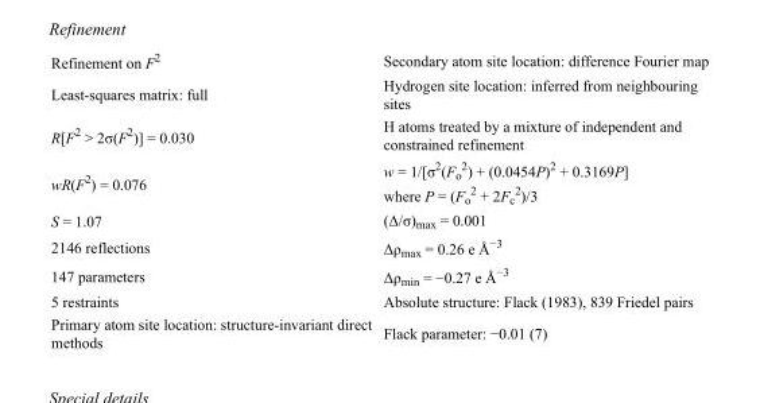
<table><tbody><tr><td>Refinement on F<sup>2</sup></td><td>Secondary atom site location: difference Fourier map</td></tr><tr><td>Least-squares matrix: full</td><td>Hydrogen site location: inferred from neighbouring sites</td></tr><tr><td>R[F<sup>2</sup> &gt; 2σ(F<sup>2</sup>)] = 0.030</td><td>H atoms treated by a mixture of independent and constrained refinement</td></tr><tr><td>wR(F<sup>2</sup>) = 0.076</td><td>w = 1/[σ<sup>2</sup>(F<sub>o</sub> <sup>2</sup>) + (0.0454P)<sup>2</sup> + 0.3169P] where P = (F<sub>o</sub> <sup>2</sup> + 2F<sub>c</sub> <sup>2</sup>)/3</td></tr><tr><td>S = 1.07</td><td>(Δ/σ)<sub>max</sub> = 0.001</td></tr><tr><td>2146 reflections</td><td>Δρ<sub>max</sub> = 0.26 e Å<sup>−3</sup></td></tr><tr><td>147 parameters</td><td>Δρ<sub>min</sub> = −0.27 e Å<sup>−3</sup></td></tr><tr><td>5 restraints</td><td>Absolute structure: Flack (1983), 839 Friedel pairs</td></tr><tr><td>Primary atom site location: structure-invariant direct methods</td><td>Flack parameter: −0.01 (7)</td></tr></tbody></table>